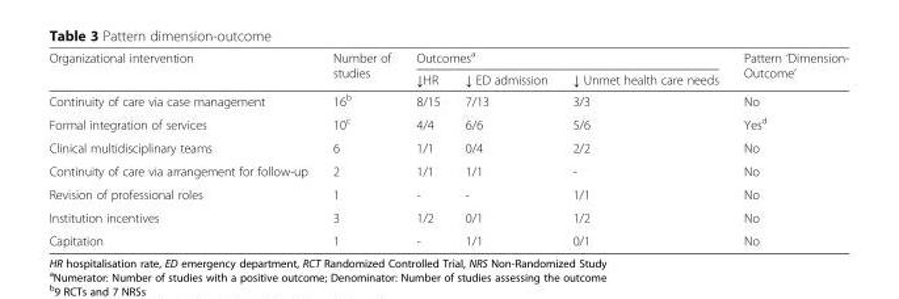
<table><thead><tr><td rowspan="2">Organizational intervention</td><td rowspan="2">Number of studies</td><td colspan="3">Outcomes<sup>a</sup></td><td rowspan="2">Pattern ‘Dimension- Outcome’</td></tr><tr><td>↓HR</td><td>↓ ED admission</td><td>↓ Unmet health care needs</td></tr></thead><tbody><tr><td>Continuity of care via case management</td><td>16<sup>b</sup></td><td>8/15</td><td>7/13</td><td>3/3</td><td>No</td></tr><tr><td>Formal integration of services</td><td>10<sup>c</sup></td><td>4/4</td><td>6/6</td><td>5/6</td><td>Yes<sup>d</sup></td></tr><tr><td>Clinical multidisciplinary teams</td><td>6</td><td>1/1</td><td>0/4</td><td>2/2</td><td>No</td></tr><tr><td>Continuity of care via arrangement for follow-up</td><td>2</td><td>1/1</td><td>1/1</td><td>-</td><td>No</td></tr><tr><td>Revision of professional roles</td><td>1</td><td>-</td><td>-</td><td>1/1</td><td>No</td></tr><tr><td>Institution incentives</td><td>3</td><td>1/2</td><td>0/1</td><td>1/2</td><td>No</td></tr><tr><td>Capitation</td><td>1</td><td>-</td><td>1/1</td><td>0/1</td><td>No</td></tr></tbody></table>